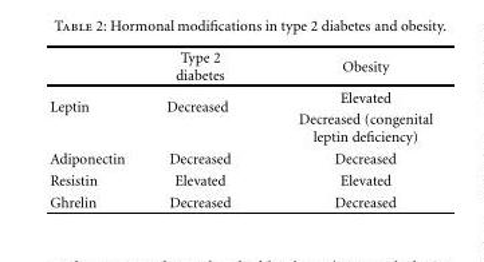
<table><thead><tr><td></td><td>Type 2 diabetes</td><td>Obesity</td></tr></thead><tbody><tr><td rowspan="2">Leptin</td><td rowspan="2">Decreased</td><td>Elevated</td></tr><tr><td>Decreased (congenital leptin deficiency)</td></tr><tr><td>Adiponectin</td><td>Decreased</td><td>Decreased</td></tr><tr><td>Resistin</td><td>Elevated</td><td>Elevated</td></tr><tr><td>Ghrelin</td><td>Decreased</td><td>Decreased</td></tr></tbody></table>